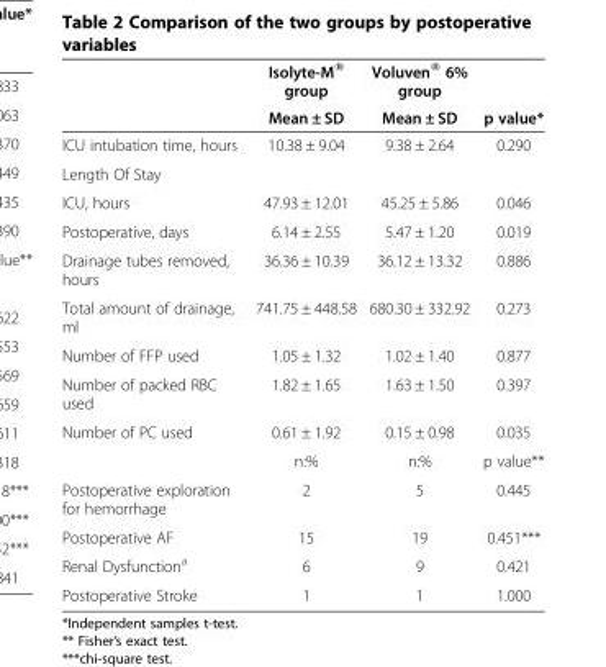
<table><thead><tr><td rowspan="2"></td><td rowspan="2">Isolyte-M® group Mean ± SD</td><td rowspan="2">Voluven® 6% group Mean ± SD</td><td rowspan="2">p value*</td></tr><tr></tr></thead><tbody><tr><td>ICU intubation time, hours</td><td>10.38 ± 9.04</td><td>9.38 ± 2.64</td><td>0.290</td></tr><tr><td colspan="4">Length Of Stay</td></tr><tr><td>ICU, hours</td><td>47.93 ± 12.01</td><td>45.25 ± 5.86</td><td>0.046</td></tr><tr><td>Postoperative, days</td><td>6.14 ± 2.55</td><td>5.47 ± 1.20</td><td>0.019</td></tr><tr><td>Drainage tubes removed, hours</td><td>36.36 ± 10.39</td><td>36.12 ± 13.32</td><td>0.886</td></tr><tr><td>Total amount of drainage, ml</td><td>741.75 ± 448.58</td><td>680.30 ± 332.92</td><td>0.273</td></tr><tr><td>Number of FFP used</td><td>1.05 ± 1.32</td><td>1.02 ± 1.40</td><td>0.877</td></tr><tr><td>Number of packed RBC used</td><td>1.82 ± 1.65</td><td>1.63 ± 1.50</td><td>0.397</td></tr><tr><td rowspan="2">Number of PC used</td><td>0.61 ± 1.92</td><td>0.15 ± 0.98</td><td>0.035</td></tr><tr><td>n:%</td><td>n:%</td><td>p value**</td></tr><tr><td>Postoperative exploration for hemorrhage</td><td>2</td><td>5</td><td>0.445</td></tr><tr><td>Postoperative AF</td><td>15</td><td>19</td><td>0.451***</td></tr><tr><td>Renal Dysfunction<sup>a</sup></td><td>6</td><td>9</td><td>0.421</td></tr><tr><td>Postoperative Stroke</td><td>1</td><td>1</td><td>1.000</td></tr></tbody></table>